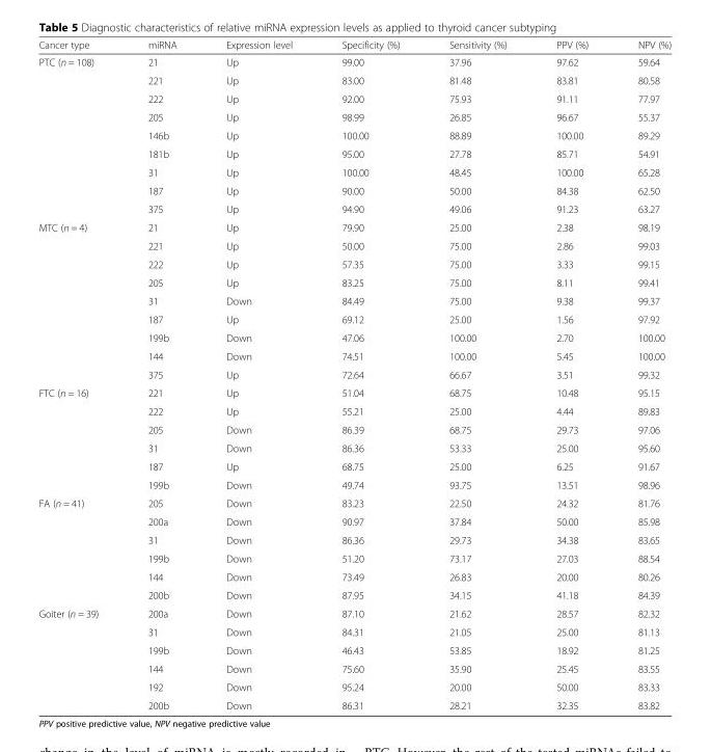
<table><thead><tr><td>Cancer type</td><td>miRNA</td><td>Expression level</td><td>Specificity (%)</td><td>Sensitivity (%)</td><td>PPV (%)</td><td>NPV (%)</td></tr></thead><tbody><tr><td rowspan="9">PTC (n = 108)</td><td>21</td><td>Up</td><td>99.00</td><td>37.96</td><td>97.62</td><td>59.64</td></tr><tr><td>221</td><td>Up</td><td>83.00</td><td>81.48</td><td>83.81</td><td>80.58</td></tr><tr><td>222</td><td>Up</td><td>92.00</td><td>75.93</td><td>91.11</td><td>77.97</td></tr><tr><td>205</td><td>Up</td><td>98.99</td><td>26.85</td><td>96.67</td><td>55.37</td></tr><tr><td>146b</td><td>Up</td><td>100.00</td><td>88.89</td><td>100.00</td><td>89.29</td></tr><tr><td>181b</td><td>Up</td><td>95.00</td><td>27.78</td><td>85.71</td><td>54.91</td></tr><tr><td>31</td><td>Up</td><td>100.00</td><td>48.45</td><td>100.00</td><td>65.28</td></tr><tr><td>187</td><td>Up</td><td>90.00</td><td>50.00</td><td>84.38</td><td>62.50</td></tr><tr><td>375</td><td>Up</td><td>94.90</td><td>49.06</td><td>91.23</td><td>63.27</td></tr><tr><td rowspan="9">MTC (n = 4)</td><td>21</td><td>Up</td><td>79.90</td><td>25.00</td><td>2.38</td><td>98.19</td></tr><tr><td>221</td><td>Up</td><td>50.00</td><td>75.00</td><td>2.86</td><td>99.03</td></tr><tr><td>222</td><td>Up</td><td>57.35</td><td>75.00</td><td>3.33</td><td>99.15</td></tr><tr><td>205</td><td>Up</td><td>83.25</td><td>75.00</td><td>8.11</td><td>99.41</td></tr><tr><td>31</td><td>Down</td><td>84.49</td><td>75.00</td><td>9.38</td><td>99.37</td></tr><tr><td>187</td><td>Up</td><td>69.12</td><td>25.00</td><td>1.56</td><td>97.92</td></tr><tr><td>199b</td><td>Down</td><td>47.06</td><td>100.00</td><td>2.70</td><td>100.00</td></tr><tr><td>144</td><td>Down</td><td>74.51</td><td>100.00</td><td>5.45</td><td>100.00</td></tr><tr><td>375</td><td>Up</td><td>72.64</td><td>66.67</td><td>3.51</td><td>99.32</td></tr><tr><td rowspan="6">FTC (n = 16)</td><td>221</td><td>Up</td><td>51.04</td><td>68.75</td><td>10.48</td><td>95.15</td></tr><tr><td>222</td><td>Up</td><td>55.21</td><td>25.00</td><td>4.44</td><td>89.83</td></tr><tr><td>205</td><td>Down</td><td>86.39</td><td>68.75</td><td>29.73</td><td>97.06</td></tr><tr><td>31</td><td>Down</td><td>86.36</td><td>53.33</td><td>25.00</td><td>95.60</td></tr><tr><td>187</td><td>Up</td><td>68.75</td><td>25.00</td><td>6.25</td><td>91.67</td></tr><tr><td>199b</td><td>Down</td><td>49.74</td><td>93.75</td><td>13.51</td><td>98.96</td></tr><tr><td rowspan="6">FA (n = 41)</td><td>205</td><td>Down</td><td>83.23</td><td>22.50</td><td>24.32</td><td>81.76</td></tr><tr><td>200a</td><td>Down</td><td>90.97</td><td>37.84</td><td>50.00</td><td>85.98</td></tr><tr><td>31</td><td>Down</td><td>86.36</td><td>29.73</td><td>34.38</td><td>83.65</td></tr><tr><td>199b</td><td>Down</td><td>51.20</td><td>73.17</td><td>27.03</td><td>88.54</td></tr><tr><td>144</td><td>Down</td><td>73.49</td><td>26.83</td><td>20.00</td><td>80.26</td></tr><tr><td>200b</td><td>Down</td><td>87.95</td><td>34.15</td><td>41.18</td><td>84.39</td></tr><tr><td rowspan="6">Goiter (n = 39)</td><td>200a</td><td>Down</td><td>87.10</td><td>21.62</td><td>28.57</td><td>82.32</td></tr><tr><td>31</td><td>Down</td><td>84.31</td><td>21.05</td><td>25.00</td><td>81.13</td></tr><tr><td>199b</td><td>Down</td><td>46.43</td><td>53.85</td><td>18.92</td><td>81.25</td></tr><tr><td>144</td><td>Down</td><td>75.60</td><td>35.90</td><td>25.45</td><td>83.55</td></tr><tr><td>192</td><td>Down</td><td>95.24</td><td>20.00</td><td>50.00</td><td>83.33</td></tr><tr><td>200b</td><td>Down</td><td>86.31</td><td>28.21</td><td>32.35</td><td>83.82</td></tr></tbody></table>